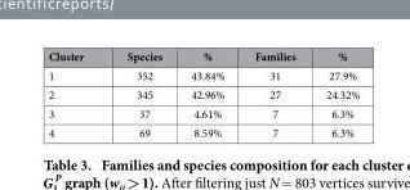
<table><thead><tr><td>Cluster</td><td>Species</td><td>%</td><td>Families</td><td>%</td></tr></thead><tbody><tr><td>1</td><td>352</td><td>43.84%</td><td>31</td><td>27.9%</td></tr><tr><td>2</td><td>345</td><td>42.96%</td><td>27</td><td>24.32%</td></tr><tr><td>3</td><td>37</td><td>4.61%</td><td>7</td><td>6.3%</td></tr><tr><td>4</td><td>69</td><td>8.59%</td><td>7</td><td>6.3%</td></tr></tbody></table>